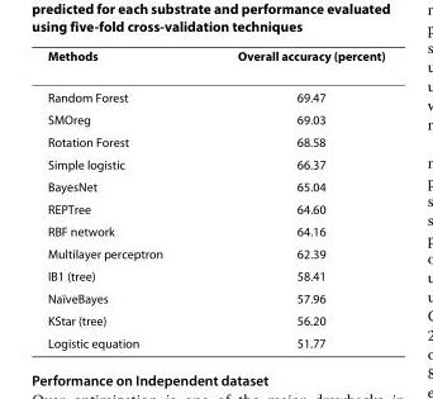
<table><thead><tr><td>Methods</td><td>Overall accuracy (percent)</td></tr></thead><tbody><tr><td>Random Forest</td><td>69.47</td></tr><tr><td>SMOreg</td><td>69.03</td></tr><tr><td>Rotation Forest</td><td>68.58</td></tr><tr><td>Simple logistic</td><td>66.37</td></tr><tr><td>BayesNet</td><td>65.04</td></tr><tr><td>REPTree</td><td>64.60</td></tr><tr><td>RBF network</td><td>64.16</td></tr><tr><td>Multilayer perceptron</td><td>62.39</td></tr><tr><td>IB1 (tree)</td><td>58.41</td></tr><tr><td>NaïveBayes</td><td>57.96</td></tr><tr><td>KStar (tree)</td><td>56.20</td></tr><tr><td>Logistic equation</td><td>51.77</td></tr></tbody></table>